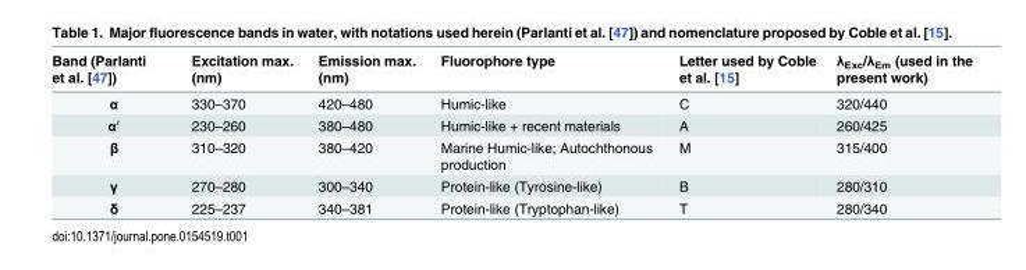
<table><thead><tr><td>Band (Parlanti et al. [47])</td><td>Excitation max. (nm)</td><td>Emission max. (nm)</td><td>Fluorophore type</td><td>Letter used by Coble et al. [15]</td><td>λ<sub>Exc</sub>/λ<sub>Em</sub> (used in the present work)</td></tr></thead><tbody><tr><td>α</td><td>330–370</td><td>420–480</td><td>Humic-like</td><td>C</td><td>320/440</td></tr><tr><td>α′</td><td>230–260</td><td>380–480</td><td>Humic-like + recent materials</td><td>A</td><td>260/425</td></tr><tr><td>β</td><td>310–320</td><td>380–420</td><td>Marine Humic-like; Autochthonous production</td><td>M</td><td>315/400</td></tr><tr><td>γ</td><td>270–280</td><td>300–340</td><td>Protein-like (Tyrosine-like)</td><td>B</td><td>280/310</td></tr><tr><td>δ</td><td>225–237</td><td>340–381</td><td>Protein-like (Tryptophan-like)</td><td>T</td><td>280/340</td></tr></tbody></table>